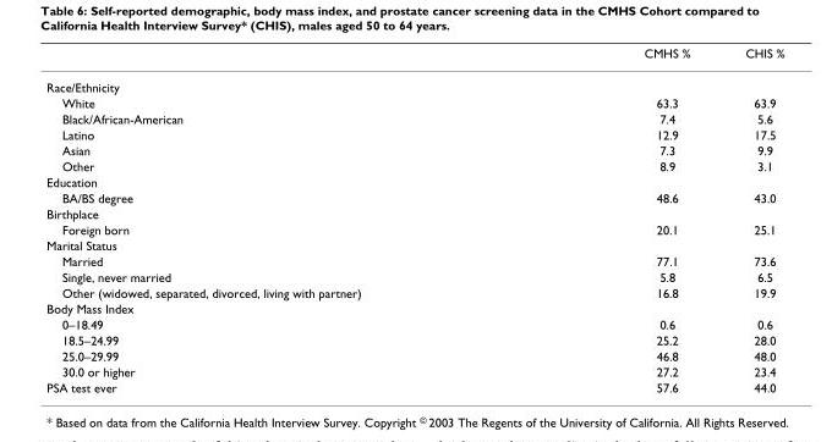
<table><thead><tr><td></td><td>CMHS %</td><td>CHIS %</td></tr></thead><tbody><tr><td colspan="3">Race/Ethnicity</td></tr><tr><td>White</td><td>63.3</td><td>63.9</td></tr><tr><td>Black/African-American</td><td>7.4</td><td>5.6</td></tr><tr><td>Latino</td><td>12.9</td><td>17.5</td></tr><tr><td>Asian</td><td>7.3</td><td>9.9</td></tr><tr><td>Other</td><td>8.9</td><td>3.1</td></tr><tr><td colspan="3">Education</td></tr><tr><td>BA/BS degree</td><td>48.6</td><td>43.0</td></tr><tr><td colspan="3">Birthplace</td></tr><tr><td>Foreign born</td><td>20.1</td><td>25.1</td></tr><tr><td colspan="3">Marital Status</td></tr><tr><td>Married</td><td>77.1</td><td>73.6</td></tr><tr><td>Single, never married</td><td>5.8</td><td>6.5</td></tr><tr><td>Other (widowed, separated, divorced, living with partner)</td><td>16.8</td><td>19.9</td></tr><tr><td colspan="3">Body Mass Index</td></tr><tr><td>0–18.49</td><td>0.6</td><td>0.6</td></tr><tr><td>18.5–24.99</td><td>25.2</td><td>28.0</td></tr><tr><td>25.0–29.99</td><td>46.8</td><td>48.0</td></tr><tr><td>30.0 or higher</td><td>27.2</td><td>23.4</td></tr><tr><td>PSA test ever</td><td>57.6</td><td>44.0</td></tr></tbody></table>